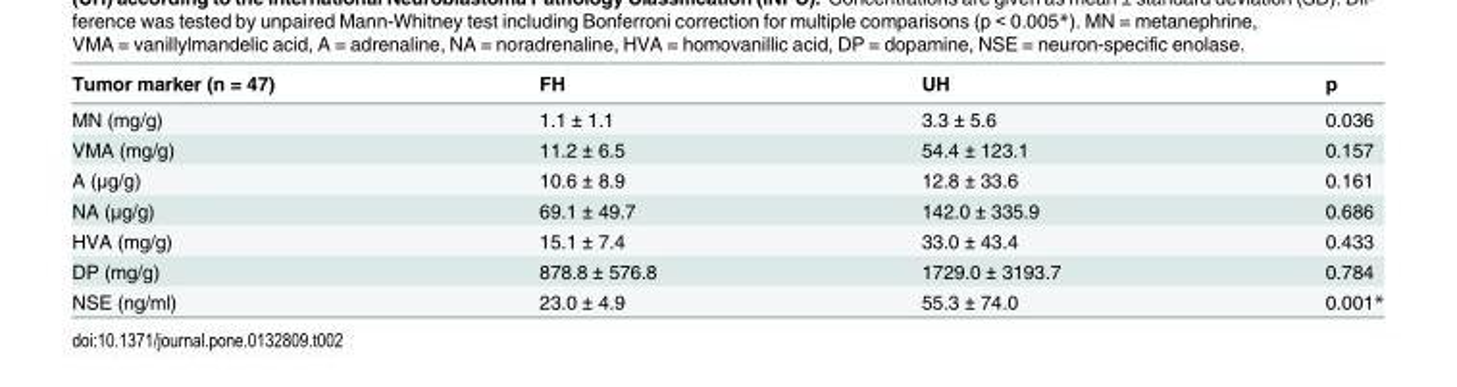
<table><thead><tr><td>Tumor marker (n = 47)</td><td>FH</td><td>UH</td><td>p</td></tr></thead><tbody><tr><td>MN (mg/g)</td><td>1.1 ± 1.1</td><td>3.3 ± 5.6</td><td>0.036</td></tr><tr><td>VMA (mg/g)</td><td>11.2 ± 6.5</td><td>54.4 ± 123.1</td><td>0.157</td></tr><tr><td>A (μg/g)</td><td>10.6 ± 8.9</td><td>12.8 ± 33.6</td><td>0.161</td></tr><tr><td>NA (μg/g)</td><td>69.1 ± 49.7</td><td>142.0 ± 335.9</td><td>0.686</td></tr><tr><td>HVA (mg/g)</td><td>15.1 ± 7.4</td><td>33.0 ± 43.4</td><td>0.433</td></tr><tr><td>DP (mg/g)</td><td>878.8 ± 576.8</td><td>1729.0 ± 3193.7</td><td>0.784</td></tr><tr><td>NSE (ng/ml)</td><td>23.0 ± 4.9</td><td>55.3 ± 74.0</td><td>0.001*</td></tr></tbody></table>